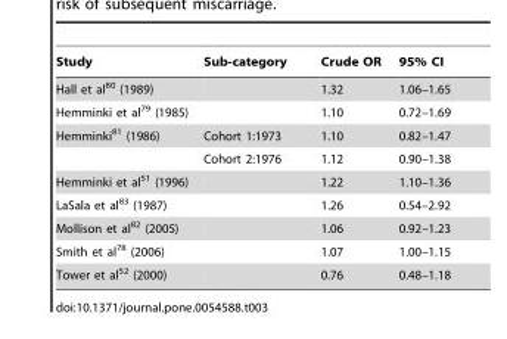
<table><thead><tr><td>Study</td><td>Sub-category</td><td>Crude OR</td><td>95% CI</td></tr></thead><tbody><tr><td>Hall et al<sup>80</sup> (1989)</td><td></td><td>1.32</td><td>1.06–1.65</td></tr><tr><td>Hemminki et al<sup>79</sup> (1985)</td><td></td><td>1.10</td><td>0.72–1.69</td></tr><tr><td rowspan="2">Hemminki<sup>81</sup> (1986)</td><td>Cohort 1:1973</td><td>1.10</td><td>0.82–1.47</td></tr><tr><td>Cohort 2:1976</td><td>1.12</td><td>0.90–1.38</td></tr><tr><td>Hemminki et al<sup>51</sup> (1996)</td><td></td><td>1.22</td><td>1.10–1.36</td></tr><tr><td>LaSala et al<sup>83</sup> (1987)</td><td></td><td>1.26</td><td>0.54–2.92</td></tr><tr><td>Mollison et al<sup>82</sup> (2005)</td><td></td><td>1.06</td><td>0.92–1.23</td></tr><tr><td>Smith et al<sup>78</sup> (2006)</td><td></td><td>1.07</td><td>1.00–1.15</td></tr><tr><td>Tower et al<sup>52</sup> (2000)</td><td></td><td>0.76</td><td>0.48–1.18</td></tr></tbody></table>